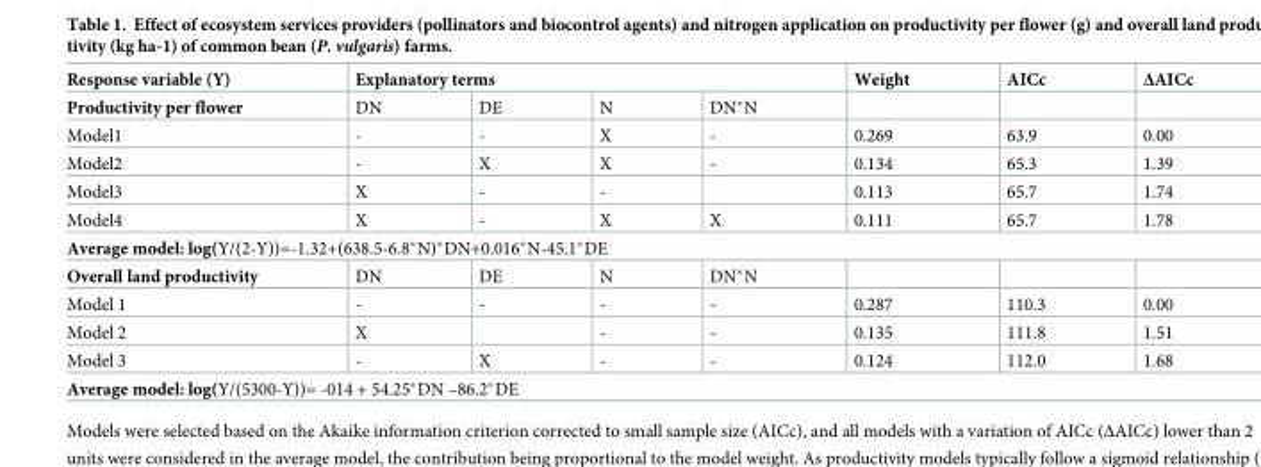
<table><tbody><tr><td>Response variable (Y)</td><td colspan="4">Explanatory terms</td><td>Weight</td><td>AICc</td><td>ΔAICc</td></tr><tr><td>Productivity per flower</td><td>DN</td><td>DE</td><td>N</td><td>DN*N</td><td></td><td></td><td></td></tr><tr><td>Model1</td><td>-</td><td>-</td><td>X</td><td>-</td><td>0.269</td><td>63.9</td><td>0.00</td></tr><tr><td>Model2</td><td>-</td><td>X</td><td>X</td><td>-</td><td>0.134</td><td>65.3</td><td>1.39</td></tr><tr><td>Model3</td><td>X</td><td>-</td><td>-</td><td></td><td>0.113</td><td>65.7</td><td>1.74</td></tr><tr><td>Model4</td><td>X</td><td>-</td><td>X</td><td>X</td><td>0.111</td><td>65.7</td><td>1.78</td></tr><tr><td colspan="8">Average model: log(Y/(2-Y))=-1.32+(638.5-6.8*N)*DN+0.016*N-45.1*DE</td></tr><tr><td>Overall land productivity</td><td>DN</td><td>DE</td><td>N</td><td>DN*N</td><td></td><td></td><td></td></tr><tr><td>Model 1</td><td>-</td><td>-</td><td>-</td><td>-</td><td>0.287</td><td>110.3</td><td>0.00</td></tr><tr><td>Model 2</td><td>X</td><td></td><td>-</td><td>-</td><td>0.135</td><td>111.8</td><td>1.51</td></tr><tr><td>Model 3</td><td>-</td><td>X</td><td>-</td><td>-</td><td>0.124</td><td>112.0</td><td>1.68</td></tr><tr><td colspan="8">Average model: log(Y/(5300-Y))= -014 + 54.25*DN –86.2*DE</td></tr></tbody></table>